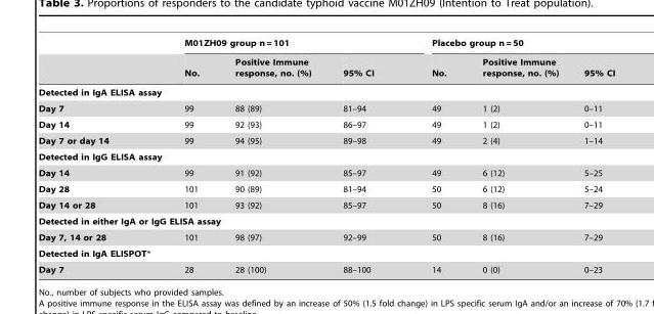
<table><thead><tr><td rowspan="2"></td><td colspan="3">M01ZH09 group n = 101</td><td colspan="3">Placebo group n = 50</td></tr><tr><td>No.</td><td>Positive Immune response, no. (%)</td><td>95% CI</td><td>No.</td><td>Positive Immune response, no. (%)</td><td>95% CI</td></tr></thead><tbody><tr><td colspan="7">Detected in IgA ELISA assay</td></tr><tr><td>Day 7</td><td>99</td><td>88 (89)</td><td>81–94</td><td>49</td><td>1 (2)</td><td>0–11</td></tr><tr><td>Day 14</td><td>99</td><td>92 (93)</td><td>86–97</td><td>49</td><td>1 (2)</td><td>0–11</td></tr><tr><td>Day 7 or day 14</td><td>99</td><td>94 (95)</td><td>89–98</td><td>49</td><td>2 (4)</td><td>1–14</td></tr><tr><td colspan="7">Detected in IgG ELISA assay</td></tr><tr><td>Day 14</td><td>99</td><td>91 (92)</td><td>85–97</td><td>49</td><td>6 (12)</td><td>5–25</td></tr><tr><td>Day 28</td><td>101</td><td>90 (89)</td><td>81–94</td><td>50</td><td>6 (12)</td><td>5–24</td></tr><tr><td>Day 14 or 28</td><td>101</td><td>93 (92)</td><td>85–97</td><td>50</td><td>8 (16)</td><td>7–29</td></tr><tr><td colspan="7">Detected in either IgA or IgG ELISA assay</td></tr><tr><td>Day 7, 14 or 28</td><td>101</td><td>98 (97)</td><td>92–99</td><td>50</td><td>8 (16)</td><td>7–29</td></tr><tr><td colspan="7">Detected in IgA ELISPOT*</td></tr><tr><td>Day 7</td><td>28</td><td>28 (100)</td><td>88–100</td><td>14</td><td>0 (0)</td><td>0–23</td></tr></tbody></table>